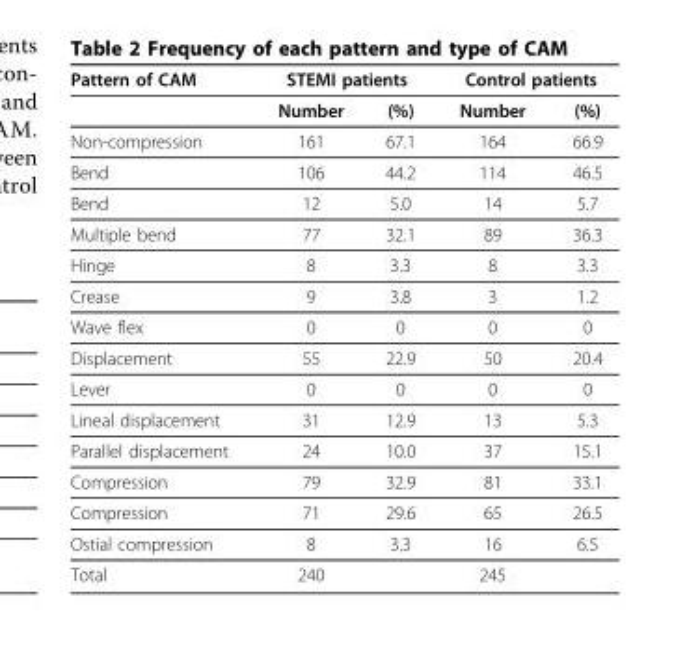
<table><thead><tr><td rowspan="2">Pattern of CAM</td><td colspan="2">STEMI patients</td><td colspan="2">Control patients</td></tr><tr><td>Number</td><td>(%)</td><td>Number</td><td>(%)</td></tr></thead><tbody><tr><td>Non-compression</td><td>161</td><td>67.1</td><td>164</td><td>66.9</td></tr><tr><td>Bend</td><td>106</td><td>44.2</td><td>114</td><td>46.5</td></tr><tr><td>Bend</td><td>12</td><td>5.0</td><td>14</td><td>5.7</td></tr><tr><td>Multiple bend</td><td>77</td><td>32.1</td><td>89</td><td>36.3</td></tr><tr><td>Hinge</td><td>8</td><td>3.3</td><td>8</td><td>3.3</td></tr><tr><td>Crease</td><td>9</td><td>3.8</td><td>3</td><td>1.2</td></tr><tr><td>Wave flex</td><td>0</td><td>0</td><td>0</td><td>0</td></tr><tr><td>Displacement</td><td>55</td><td>22.9</td><td>50</td><td>20.4</td></tr><tr><td>Lever</td><td>0</td><td>0</td><td>0</td><td>0</td></tr><tr><td>Lineal displacement</td><td>31</td><td>12.9</td><td>13</td><td>5.3</td></tr><tr><td>Parallel displacement</td><td>24</td><td>10.0</td><td>37</td><td>15.1</td></tr><tr><td>Compression</td><td>79</td><td>32.9</td><td>81</td><td>33.1</td></tr><tr><td>Compression</td><td>71</td><td>29.6</td><td>65</td><td>26.5</td></tr><tr><td>Ostial compression</td><td>8</td><td>3.3</td><td>16</td><td>6.5</td></tr><tr><td>Total</td><td>240</td><td></td><td>245</td><td></td></tr></tbody></table>